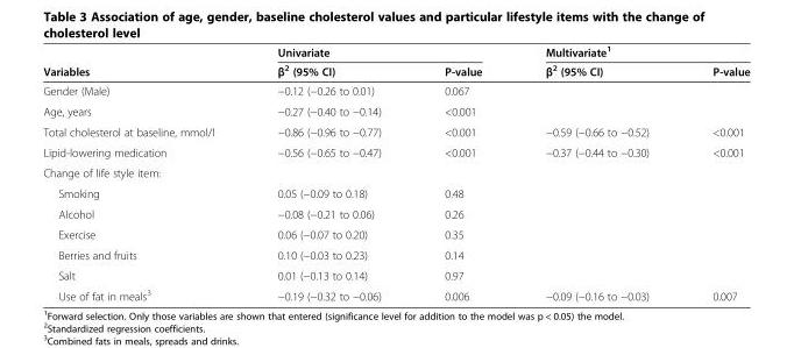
<table><thead><tr><td rowspan="2">Variables</td><td colspan="2">Univariate</td><td colspan="2">Multivariate<sup>1</sup></td></tr><tr><td>β<sup>2</sup> (95% CI)</td><td>P-value</td><td>β<sup>2</sup> (95% CI)</td><td>P-value</td></tr></thead><tbody><tr><td>Gender (Male)</td><td>−0.12 (−0.26 to 0.01)</td><td>0.067</td><td></td><td></td></tr><tr><td>Age, years</td><td>−0.27 (−0.40 to −0.14)</td><td>&lt;0.001</td><td></td><td></td></tr><tr><td>Total cholesterol at baseline, mmol/l</td><td>−0.86 (−0.96 to −0.77)</td><td>&lt;0.001</td><td>−0.59 (−0.66 to −0.52)</td><td>&lt;0.001</td></tr><tr><td>Lipid-lowering medication</td><td>−0.56 (−0.65 to −0.47)</td><td>&lt;0.001</td><td>−0.37 (−0.44 to −0.30)</td><td>&lt;0.001</td></tr><tr><td colspan="5">Change of life style item:</td></tr><tr><td>Smoking</td><td>0.05 (−0.09 to 0.18)</td><td>0.48</td><td></td><td></td></tr><tr><td>Alcohol</td><td>−0.08 (−0.21 to 0.06)</td><td>0.26</td><td></td><td></td></tr><tr><td>Exercise</td><td>0.06 (−0.07 to 0.20)</td><td>0.35</td><td></td><td></td></tr><tr><td>Berries and fruits</td><td>0.10 (−0.03 to 0.23)</td><td>0.14</td><td></td><td></td></tr><tr><td>Salt</td><td>0.01 (−0.13 to 0.14)</td><td>0.97</td><td></td><td></td></tr><tr><td>Use of fat in meals<sup>3</sup></td><td>−0.19 (−0.32 to −0.06)</td><td>0.006</td><td>−0.09 (−0.16 to −0.03)</td><td>0.007</td></tr></tbody></table>